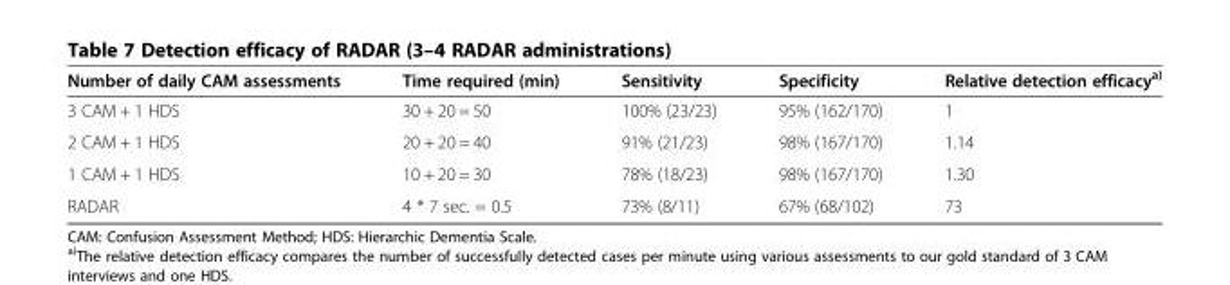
<table><thead><tr><td>Number of daily CAM assessments</td><td>Time required (min)</td><td>Sensitivity</td><td>Specificity</td><td>Relative detection efficacy<sup>a)</sup></td></tr></thead><tbody><tr><td>3 CAM + 1 HDS</td><td>30 + 20 = 50</td><td>100% (23/23)</td><td>95% (162/170)</td><td>1</td></tr><tr><td>2 CAM + 1 HDS</td><td>20 + 20 = 40</td><td>91% (21/23)</td><td>98% (167/170)</td><td>1.14</td></tr><tr><td>1 CAM + 1 HDS</td><td>10 + 20 = 30</td><td>78% (18/23)</td><td>98% (167/170)</td><td>1.30</td></tr><tr><td>RADAR</td><td>4 * 7 sec. = 0.5</td><td>73% (8/11)</td><td>67% (68/102)</td><td>73</td></tr></tbody></table>